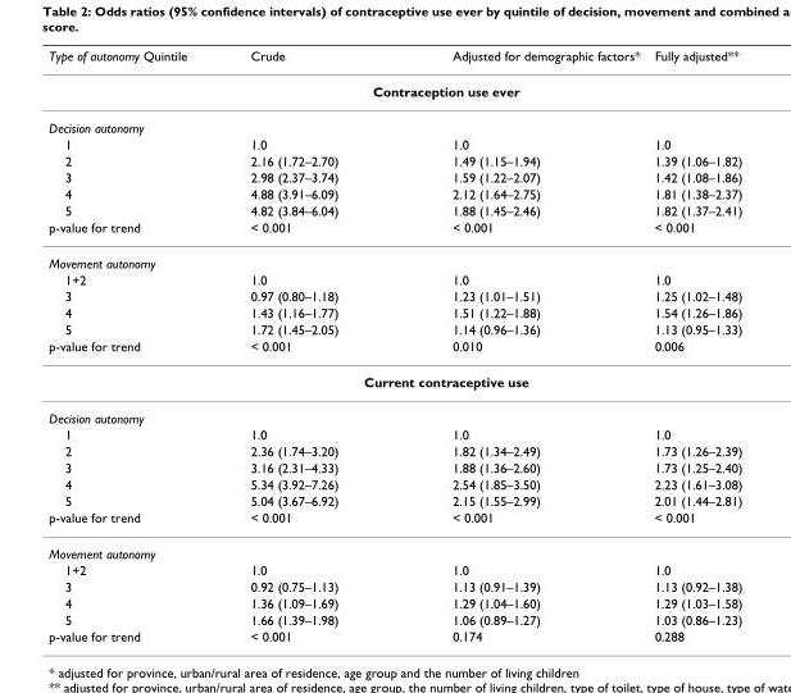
<table><thead><tr><td>Type of autonomy Quintile</td><td>Crude</td><td>Adjusted for demographic factors*</td><td>Fully adjusted**</td></tr></thead><tbody><tr><td colspan="4">Contraception use ever</td></tr><tr><td colspan="4">Decision autonomy</td></tr><tr><td>1</td><td>1.0</td><td>1.0</td><td>1.0</td></tr><tr><td>2</td><td>2.16 (1.72–2.70)</td><td>1.49 (1.15–1.94)</td><td>1.39 (1.06–1.82)</td></tr><tr><td>3</td><td>2.98 (2.37–3.74)</td><td>1.59 (1.22–2.07)</td><td>1.42 (1.08–1.86)</td></tr><tr><td>4</td><td>4.88 (3.91–6.09)</td><td>2.12 (1.64–2.75)</td><td>1.81 (1.38–2.37)</td></tr><tr><td>5</td><td>4.82 (3.84–6.04)</td><td>1.88 (1.45–2.46)</td><td>1.82 (1.37–2.41)</td></tr><tr><td>p-value for trend</td><td>&lt; 0.001</td><td>&lt; 0.001</td><td>&lt; 0.001</td></tr><tr><td colspan="4">Movement autonomy</td></tr><tr><td>1+2</td><td>1.0</td><td>1.0</td><td>1.0</td></tr><tr><td>3</td><td>0.97 (0.80–1.18)</td><td>1.23 (1.01–1.51)</td><td>1.25 (1.02–1.48)</td></tr><tr><td>4</td><td>1.43 (1.16–1.77)</td><td>1.51 (1.22–1.88)</td><td>1.54 (1.26–1.86)</td></tr><tr><td>5</td><td>1.72 (1.45–2.05)</td><td>1.14 (0.96–1.36)</td><td>1.13 (0.95–1.33)</td></tr><tr><td>p-value for trend</td><td>&lt; 0.001</td><td>0.010</td><td>0.006</td></tr><tr><td colspan="4">Current contraceptive use</td></tr><tr><td colspan="4">Decision autonomy</td></tr><tr><td>1</td><td>1.0</td><td>1.0</td><td>1.0</td></tr><tr><td>2</td><td>2.36 (1.74–3.20)</td><td>1.82 (1.34–2.49)</td><td>1.73 (1.26–2.39)</td></tr><tr><td>3</td><td>3.16 (2.31–4.33)</td><td>1.88 (1.36–2.60)</td><td>1.73 (1.25–2.40)</td></tr><tr><td>4</td><td>5.34 (3.92–7.26)</td><td>2.54 (1.85–3.50)</td><td>2.23 (1.61–3.08)</td></tr><tr><td>5</td><td>5.04 (3.67–6.92)</td><td>2.15 (1.55–2.99)</td><td>2.01 (1.44–2.81)</td></tr><tr><td>p-value for trend</td><td>&lt; 0.001</td><td>&lt; 0.001</td><td>&lt; 0.001</td></tr><tr><td colspan="4">Movement autonomy</td></tr><tr><td>1+2</td><td>1.0</td><td>1.0</td><td>1.0</td></tr><tr><td>3</td><td>0.92 (0.75–1.13)</td><td>1.13 (0.91–1.39)</td><td>1.13 (0.92–1.38)</td></tr><tr><td>4</td><td>1.36 (1.09–1.69)</td><td>1.29 (1.04–1.60)</td><td>1.29 (1.03–1.58)</td></tr><tr><td>5</td><td>1.66 (1.39–1.98)</td><td>1.06 (0.89–1.27)</td><td>1.03 (0.86–1.23)</td></tr><tr><td>p-value for trend</td><td>&lt; 0.001</td><td>0.174</td><td>0.288</td></tr></tbody></table>